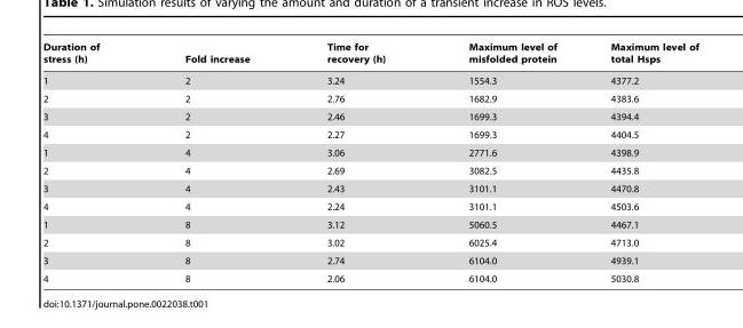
<table><thead><tr><td>Duration of stress (h)</td><td>Fold increase</td><td>Time for recovery (h)</td><td>Maximum level of misfolded protein</td><td>Maximum level of total Hsps</td></tr></thead><tbody><tr><td>1</td><td>2</td><td>3.24</td><td>1554.3</td><td>4377.2</td></tr><tr><td>2</td><td>2</td><td>2.76</td><td>1682.9</td><td>4383.6</td></tr><tr><td>3</td><td>2</td><td>2.46</td><td>1699.3</td><td>4394.4</td></tr><tr><td>4</td><td>2</td><td>2.27</td><td>1699.3</td><td>4404.5</td></tr><tr><td>1</td><td>4</td><td>3.06</td><td>2771.6</td><td>4398.9</td></tr><tr><td>2</td><td>4</td><td>2.69</td><td>3082.5</td><td>4435.8</td></tr><tr><td>3</td><td>4</td><td>2.43</td><td>3101.1</td><td>4470.8</td></tr><tr><td>4</td><td>4</td><td>2.24</td><td>3101.1</td><td>4503.6</td></tr><tr><td>1</td><td>8</td><td>3.12</td><td>5060.5</td><td>4467.1</td></tr><tr><td>2</td><td>8</td><td>3.02</td><td>6025.4</td><td>4713.0</td></tr><tr><td>3</td><td>8</td><td>2.74</td><td>6104.0</td><td>4939.1</td></tr><tr><td>4</td><td>8</td><td>2.06</td><td>6104.0</td><td>5030.8</td></tr></tbody></table>